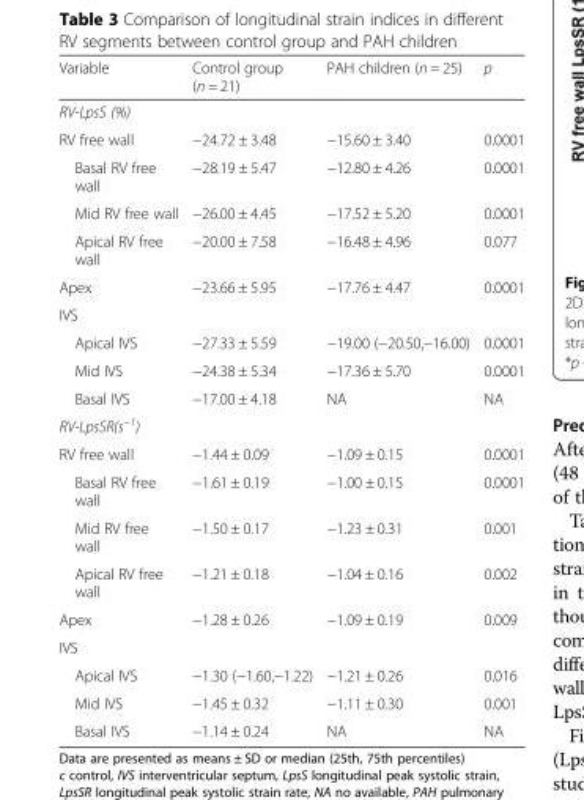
<table><thead><tr><td>Variable</td><td>Control group (n = 21)</td><td>PAH children (n = 25)</td><td>p</td></tr></thead><tbody><tr><td colspan="4">RV-LpsS (%)</td></tr><tr><td>RV free wall</td><td>−24.72 ± 3.48</td><td>−15.60 ± 3.40</td><td>0.0001</td></tr><tr><td>Basal RV free wall</td><td>−28.19 ± 5.47</td><td>−12.80 ± 4.26</td><td>0.0001</td></tr><tr><td>Mid RV free wall</td><td>−26.00 ± 4.45</td><td>−17.52 ± 5.20</td><td>0.0001</td></tr><tr><td>Apical RV free wall</td><td>−20.00 ± 7.58</td><td>−16.48 ± 4.96</td><td>0.077</td></tr><tr><td>Apex</td><td>−23.66 ± 5.95</td><td>−17.76 ± 4.47</td><td>0.0001</td></tr><tr><td colspan="4">IVS</td></tr><tr><td>Apical IVS</td><td>−27.33 ± 5.59</td><td>−19.00 (−20.50,−16.00)</td><td>0.0001</td></tr><tr><td>Mid IVS</td><td>−24.38 ± 5.34</td><td>−17.36 ± 5.70</td><td>0.0001</td></tr><tr><td>Basal IVS</td><td>−17.00 ± 4.18</td><td>NA</td><td>NA</td></tr><tr><td colspan="4">RV-LpsSR(s<sup>−1</sup>)</td></tr><tr><td>RV free wall</td><td>−1.44 ± 0.09</td><td>−1.09 ± 0.15</td><td>0.0001</td></tr><tr><td>Basal RV free wall</td><td>−1.61 ± 0.19</td><td>−1.00 ± 0.15</td><td>0.0001</td></tr><tr><td>Mid RV free wall</td><td>−1.50 ± 0.17</td><td>−1.23 ± 0.31</td><td>0.001</td></tr><tr><td>Apical RV free wall</td><td>−1.21 ± 0.18</td><td>−1.04 ± 0.16</td><td>0.002</td></tr><tr><td>Apex</td><td>−1.28 ± 0.26</td><td>−1.09 ± 0.19</td><td>0.009</td></tr><tr><td colspan="4">IVS</td></tr><tr><td>Apical IVS</td><td>−1.30 (−1.60,−1.22)</td><td>−1.21 ± 0.26</td><td>0.016</td></tr><tr><td>Mid IVS</td><td>−1.45 ± 0.32</td><td>−1.11 ± 0.30</td><td>0.001</td></tr><tr><td>Basal IVS</td><td>−1.14 ± 0.24</td><td>NA</td><td>NA</td></tr></tbody></table>